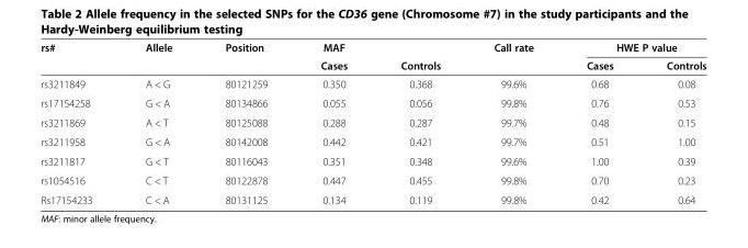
<table><thead><tr><td rowspan="2">rs#</td><td rowspan="2">Allele</td><td rowspan="2">Position</td><td rowspan="2">MAF Cases</td><td rowspan="2">Controls</td><td rowspan="2">Call rate</td><td colspan="2">HWE P value</td></tr><tr><td>Cases</td><td>Controls</td></tr></thead><tbody><tr><td>rs3211849</td><td>A &lt; G</td><td>80121259</td><td>0.350</td><td>0.368</td><td>99.6%</td><td>0.68</td><td>0.08</td></tr><tr><td>rs17154258</td><td>G &lt; A</td><td>80134866</td><td>0.055</td><td>0.056</td><td>99.8%</td><td>0.76</td><td>0.53</td></tr><tr><td>rs3211869</td><td>A &lt; T</td><td>80125088</td><td>0.288</td><td>0.287</td><td>99.7%</td><td>0.48</td><td>0.15</td></tr><tr><td>rs3211958</td><td>G &lt; A</td><td>80142008</td><td>0.442</td><td>0.421</td><td>99.7%</td><td>0.51</td><td>1.00</td></tr><tr><td>rs3211817</td><td>G &lt; T</td><td>80116043</td><td>0.351</td><td>0.348</td><td>99.6%</td><td>1.00</td><td>0.39</td></tr><tr><td>rs1054516</td><td>C &lt; T</td><td>80122878</td><td>0.447</td><td>0.455</td><td>99.8%</td><td>0.70</td><td>0.23</td></tr><tr><td>Rs17154233</td><td>C &lt; A</td><td>80131125</td><td>0.134</td><td>0.119</td><td>99.8%</td><td>0.42</td><td>0.64</td></tr></tbody></table>